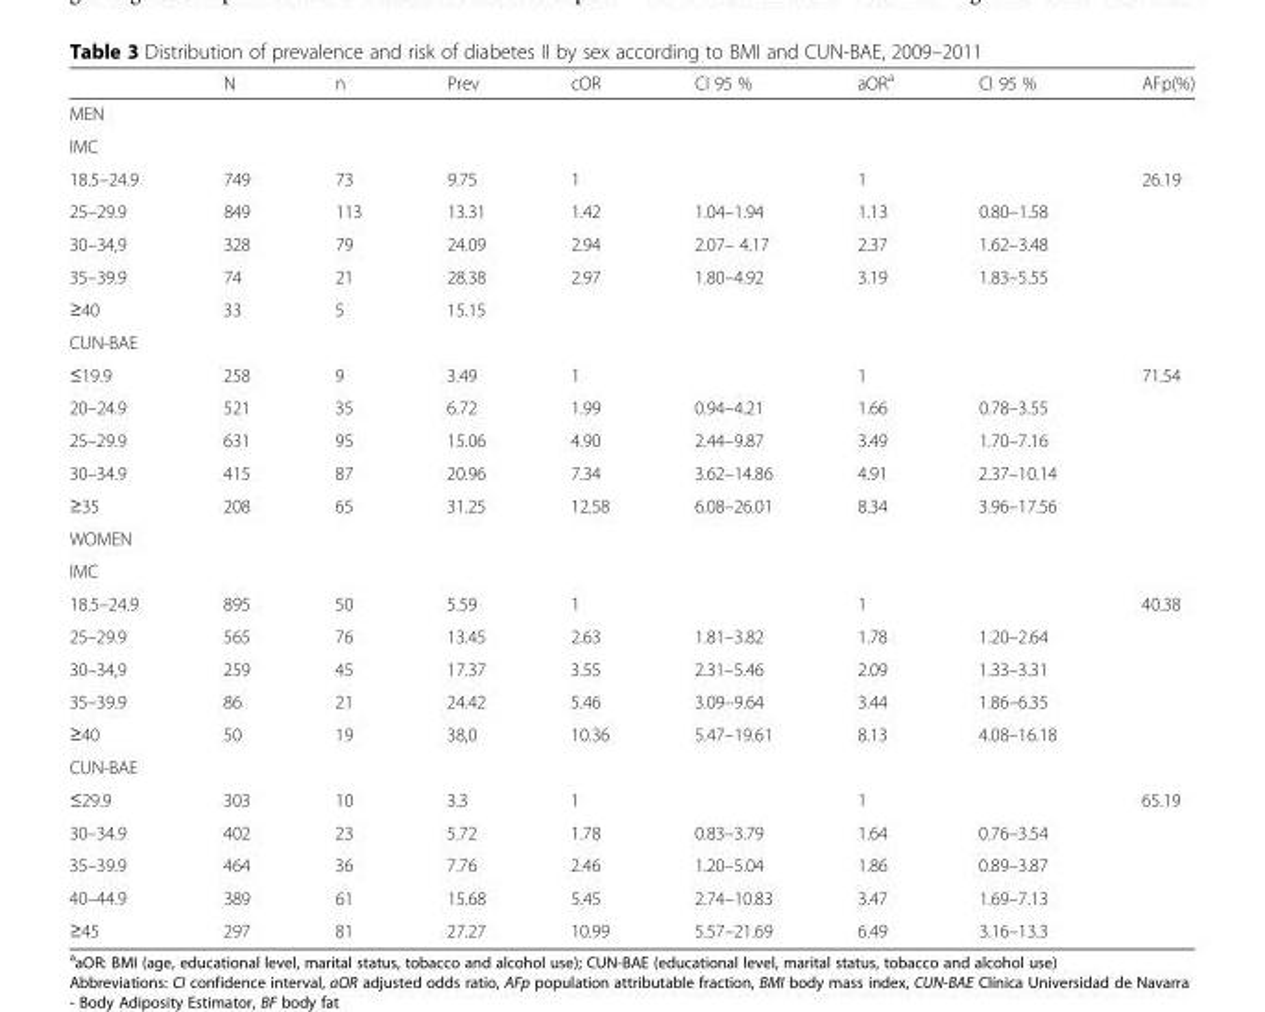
<table><thead><tr><td></td><td>N</td><td>n</td><td>Prev</td><td>cOR</td><td>CI 95 %</td><td>aOR<sup>a</sup></td><td>CI 95 %</td><td>AFp(%)</td></tr></thead><tbody><tr><td colspan="9">MEN</td></tr><tr><td colspan="9">IMC</td></tr><tr><td>18.5–24.9</td><td>749</td><td>73</td><td>9.75</td><td>1</td><td></td><td>1</td><td></td><td rowspan="5">26.19</td></tr><tr><td>25–29.9</td><td>849</td><td>113</td><td>13.31</td><td>1.42</td><td>1.04–1.94</td><td>1.13</td><td>0.80–1.58</td></tr><tr><td>30–34,9</td><td>328</td><td>79</td><td>24.09</td><td>2.94</td><td>2.07– 4.17</td><td>2.37</td><td>1.62–3.48</td></tr><tr><td>35–39.9</td><td>74</td><td>21</td><td>28.38</td><td rowspan="2">2.97</td><td rowspan="2">1.80–4.92</td><td rowspan="2">3.19</td><td rowspan="2">1.83–5.55</td></tr><tr><td>≥40</td><td>33</td><td>5</td><td>15.15</td></tr><tr><td colspan="9">CUN-BAE</td></tr><tr><td>≤19.9</td><td>258</td><td>9</td><td>3.49</td><td>1</td><td></td><td>1</td><td></td><td rowspan="5">71.54</td></tr><tr><td>20–24.9</td><td>521</td><td>35</td><td>6.72</td><td>1.99</td><td>0.94–4.21</td><td>1.66</td><td>0.78–3.55</td></tr><tr><td>25–29.9</td><td>631</td><td>95</td><td>15.06</td><td>4.90</td><td>2.44–9.87</td><td>3.49</td><td>1.70–7.16</td></tr><tr><td>30–34.9</td><td>415</td><td>87</td><td>20.96</td><td>7.34</td><td>3.62–14.86</td><td>4.91</td><td>2.37–10.14</td></tr><tr><td>≥35</td><td>208</td><td>65</td><td>31.25</td><td>12.58</td><td>6.08–26.01</td><td>8.34</td><td>3.96–17.56</td></tr><tr><td colspan="9">WOMEN</td></tr><tr><td colspan="9">IMC</td></tr><tr><td>18.5–24.9</td><td>895</td><td>50</td><td>5.59</td><td>1</td><td></td><td>1</td><td></td><td rowspan="5">40.38</td></tr><tr><td>25–29.9</td><td>565</td><td>76</td><td>13.45</td><td>2.63</td><td>1.81–3.82</td><td>1.78</td><td>1.20–2.64</td></tr><tr><td>30–34,9</td><td>259</td><td>45</td><td>17.37</td><td>3.55</td><td>2.31–5.46</td><td>2.09</td><td>1.33–3.31</td></tr><tr><td>35–39.9</td><td>86</td><td>21</td><td>24.42</td><td>5.46</td><td>3.09–9.64</td><td>3.44</td><td>1.86–6.35</td></tr><tr><td>≥40</td><td>50</td><td>19</td><td>38,0</td><td>10.36</td><td>5.47–19.61</td><td>8.13</td><td>4.08–16.18</td></tr><tr><td colspan="9">CUN-BAE</td></tr><tr><td>≤29.9</td><td>303</td><td>10</td><td>3.3</td><td>1</td><td></td><td>1</td><td></td><td rowspan="5">65.19</td></tr><tr><td>30–34.9</td><td>402</td><td>23</td><td>5.72</td><td>1.78</td><td>0.83–3.79</td><td>1.64</td><td>0.76–3.54</td></tr><tr><td>35–39.9</td><td>464</td><td>36</td><td>7.76</td><td>2.46</td><td>1.20–5.04</td><td>1.86</td><td>0.89–3.87</td></tr><tr><td>40–44.9</td><td>389</td><td>61</td><td>15.68</td><td>5.45</td><td>2.74–10.83</td><td>3.47</td><td>1.69–7.13</td></tr><tr><td>≥45</td><td>297</td><td>81</td><td>27.27</td><td>10.99</td><td>5.57–21.69</td><td>6.49</td><td>3.16–13.3</td></tr></tbody></table>